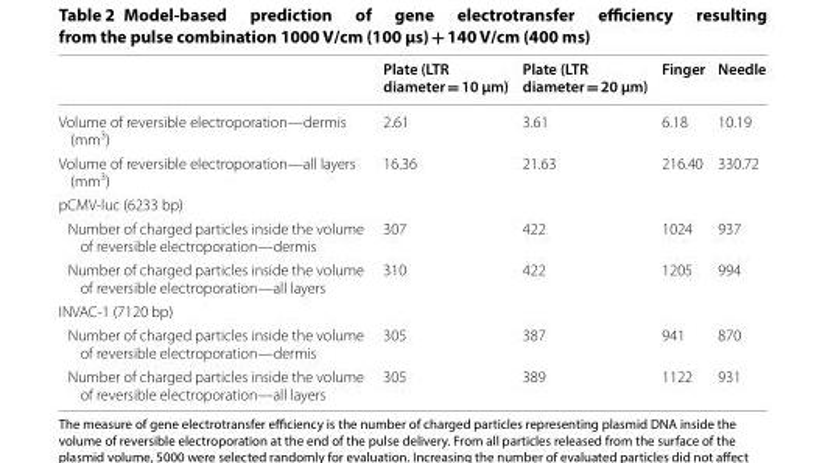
<table><thead><tr><td></td><td>Plate (LTR diameter = 10 μm)</td><td>Plate (LTR diameter = 20 μm)</td><td>Finger</td><td>Needle</td></tr></thead><tbody><tr><td>Volume of reversible electroporation—dermis (mm<sup>3</sup>)</td><td>2.61</td><td>3.61</td><td>6.18</td><td>10.19</td></tr><tr><td>Volume of reversible electroporation—all layers (mm<sup>3</sup>)</td><td>16.36</td><td>21.63</td><td>216.40</td><td>330.72</td></tr><tr><td colspan="5">pCMV-luc (6233 bp)</td></tr><tr><td>Number of charged particles inside the volume of reversible electroporation—dermis</td><td>307</td><td>422</td><td>1024</td><td>937</td></tr><tr><td>Number of charged particles inside the volume of reversible electroporation—all layers</td><td>310</td><td>422</td><td>1205</td><td>994</td></tr><tr><td colspan="5">INVAC-1 (7120 bp)</td></tr><tr><td>Number of charged particles inside the volume of reversible electroporation—dermis</td><td>305</td><td>387</td><td>941</td><td>870</td></tr><tr><td>Number of charged particles inside the volume of reversible electroporation—all layers</td><td>305</td><td>389</td><td>1122</td><td>931</td></tr></tbody></table>